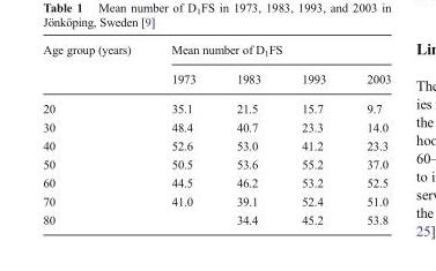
<table><thead><tr><td rowspan="2">Age group (years)</td><td colspan="4">Mean number of D<sub>1</sub>FS</td></tr><tr><td>1973</td><td>1983</td><td>1993</td><td>2003</td></tr></thead><tbody><tr><td>20</td><td>35.1</td><td>21.5</td><td>15.7</td><td>9.7</td></tr><tr><td>30</td><td>48.4</td><td>40.7</td><td>23.3</td><td>14.0</td></tr><tr><td>40</td><td>52.6</td><td>53.0</td><td>41.2</td><td>23.3</td></tr><tr><td>50</td><td>50.5</td><td>53.6</td><td>55.2</td><td>37.0</td></tr><tr><td>60</td><td>44.5</td><td>46.2</td><td>53.2</td><td>52.5</td></tr><tr><td>70</td><td>41.0</td><td>39.1</td><td>52.4</td><td>51.0</td></tr><tr><td>80</td><td></td><td>34.4</td><td>45.2</td><td>53.8</td></tr></tbody></table>